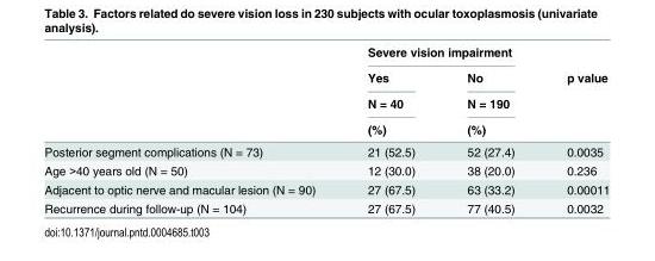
<table><thead><tr><td rowspan="4"></td><td colspan="2">Severe vision impairment</td><td rowspan="4">p value</td></tr><tr><td rowspan="3">Yes N = 40 (%)</td><td rowspan="3">No N = 190 (%)</td></tr><tr></tr><tr></tr></thead><tbody><tr><td>Posterior segment complications (N = 73)</td><td>21 (52.5)</td><td>52 (27.4)</td><td>0.0035</td></tr><tr><td>Age &gt;40 years old (N = 50)</td><td>12 (30.0)</td><td>38 (20.0)</td><td>0.236</td></tr><tr><td>Adjacent to optic nerve and macular lesion (N = 90)</td><td>27 (67.5)</td><td>63 (33.2)</td><td>0.00011</td></tr><tr><td>Recurrence during follow-up (N = 104)</td><td>27 (67.5)</td><td>77 (40.5)</td><td>0.0032</td></tr></tbody></table>